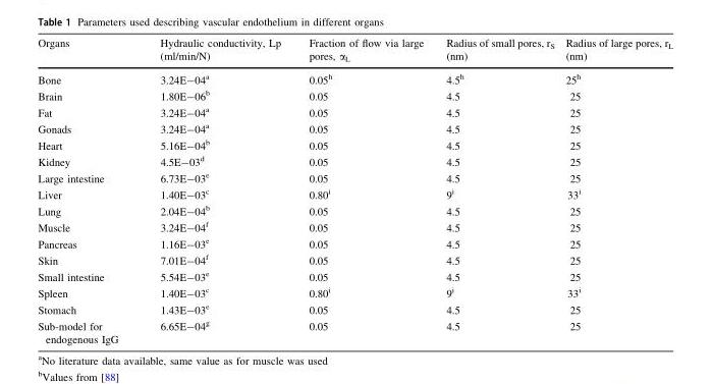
<table><thead><tr><td>Organs</td><td>Hydraulic conductivity, Lp (ml/min/N)</td><td>Fraction of flow via large pores, α<sub>L</sub></td><td>Radius of small pores, r<sub>S</sub> (nm)</td><td>Radius of large pores, r<sub>L</sub> (nm)</td></tr></thead><tbody><tr><td>Bone</td><td>3.24E-04<sup>a</sup></td><td>0.05<sup>h</sup></td><td>4.5<sup>h</sup></td><td>25<sup>h</sup></td></tr><tr><td>Brain</td><td>1.80E-06<sup>b</sup></td><td>0.05</td><td>4.5</td><td>25</td></tr><tr><td>Fat</td><td>3.24E-04<sup>a</sup></td><td>0.05</td><td>4.5</td><td>25</td></tr><tr><td>Gonads</td><td>3.24E-04<sup>a</sup></td><td>0.05</td><td>4.5</td><td>25</td></tr><tr><td>Heart</td><td>5.16E-04<sup>b</sup></td><td>0.05</td><td>4.5</td><td>25</td></tr><tr><td>Kidney</td><td>4.5E-03<sup>d</sup></td><td>0.05</td><td>4.5</td><td>25</td></tr><tr><td>Large intestine</td><td>6.73E-03<sup>e</sup></td><td>0.05</td><td>4.5</td><td>25</td></tr><tr><td>Liver</td><td>1.40E-03<sup>c</sup></td><td>0.80<sup>i</sup></td><td>9<sup>i</sup></td><td>33<sup>i</sup></td></tr><tr><td>Lung</td><td>2.04E-04<sup>b</sup></td><td>0.05</td><td>4.5</td><td>25</td></tr><tr><td>Muscle</td><td>3.24E-04<sup>f</sup></td><td>0.05</td><td>4.5</td><td>25</td></tr><tr><td>Pancreas</td><td>1.16E-03<sup>e</sup></td><td>0.05</td><td>4.5</td><td>25</td></tr><tr><td>Skin</td><td>7.01E-04<sup>f</sup></td><td>0.05</td><td>4.5</td><td>25</td></tr><tr><td>Small intestine</td><td>5.54E-03<sup>e</sup></td><td>0.05</td><td>4.5</td><td>25</td></tr><tr><td>Spleen</td><td>1.40E-03<sup>c</sup></td><td>0.80<sup>i</sup></td><td>9<sup>i</sup></td><td>33<sup>i</sup></td></tr><tr><td>Stomach</td><td>1.43E-03<sup>e</sup></td><td>0.05</td><td>4.5</td><td>25</td></tr><tr><td>Sub-model for endogenous IgG</td><td>6.65E-04<sup>g</sup></td><td>0.05</td><td>4.5</td><td>25</td></tr></tbody></table>